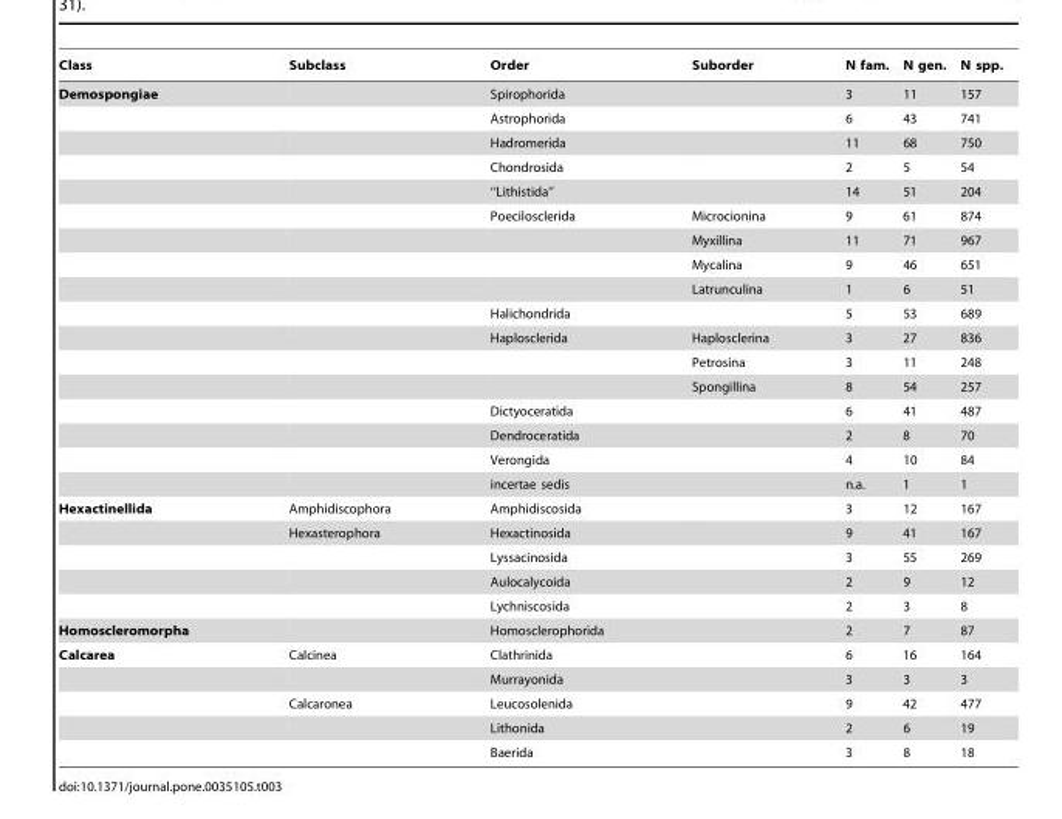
<table><thead><tr><td>Class</td><td>Subclass</td><td>Order</td><td>Suborder</td><td>N fam.</td><td>N gen.</td><td>N spp.</td></tr></thead><tbody><tr><td rowspan="17">Demospongiae</td><td></td><td>Spirophorida</td><td></td><td>3</td><td>11</td><td>157</td></tr><tr><td></td><td>Astrophorida</td><td></td><td>6</td><td>43</td><td>741</td></tr><tr><td></td><td>Hadromerida</td><td></td><td>11</td><td>68</td><td>750</td></tr><tr><td></td><td>Chondrosida</td><td></td><td>2</td><td>5</td><td>54</td></tr><tr><td></td><td>‘‘Lithistida’’</td><td></td><td>14</td><td>51</td><td>204</td></tr><tr><td></td><td>Poecilosclerida</td><td>Microcionina</td><td>9</td><td>61</td><td>874</td></tr><tr><td></td><td></td><td>Myxillina</td><td>11</td><td>71</td><td>967</td></tr><tr><td></td><td></td><td>Mycalina</td><td>9</td><td>46</td><td>651</td></tr><tr><td></td><td></td><td>Latrunculina</td><td>1</td><td>6</td><td>51</td></tr><tr><td></td><td>Halichondrida</td><td></td><td>5</td><td>53</td><td>689</td></tr><tr><td></td><td>Haplosclerida</td><td>Haplosclerina</td><td>3</td><td>27</td><td>836</td></tr><tr><td></td><td></td><td>Petrosina</td><td>3</td><td>11</td><td>248</td></tr><tr><td></td><td></td><td>Spongillina</td><td>8</td><td>54</td><td>257</td></tr><tr><td></td><td>Dictyoceratida</td><td></td><td>6</td><td>41</td><td>487</td></tr><tr><td></td><td>Dendroceratida</td><td></td><td>2</td><td>8</td><td>70</td></tr><tr><td></td><td>Verongida</td><td></td><td>4</td><td>10</td><td>84</td></tr><tr><td></td><td>incertae sedis</td><td></td><td>n.a.</td><td>1</td><td>1</td></tr><tr><td rowspan="5">Hexactinellida</td><td>Amphidiscophora</td><td>Amphidiscosida</td><td></td><td>3</td><td>12</td><td>167</td></tr><tr><td>Hexasterophora</td><td>Hexactinosida</td><td></td><td>9</td><td>41</td><td>167</td></tr><tr><td></td><td>Lyssacinosida</td><td></td><td>3</td><td>55</td><td>269</td></tr><tr><td></td><td>Aulocalycoida</td><td></td><td>2</td><td>9</td><td>12</td></tr><tr><td></td><td>Lychniscosida</td><td></td><td>2</td><td>3</td><td>8</td></tr><tr><td>Homoscleromorpha</td><td></td><td>Homosclerophorida</td><td></td><td>2</td><td>7</td><td>87</td></tr><tr><td rowspan="5">Calcarea</td><td>Calcinea</td><td>Clathrinida</td><td></td><td>6</td><td>16</td><td>164</td></tr><tr><td></td><td>Murrayonida</td><td></td><td>3</td><td>3</td><td>3</td></tr><tr><td>Calcaronea</td><td>Leucosolenida</td><td></td><td>9</td><td>42</td><td>477</td></tr><tr><td></td><td>Lithonida</td><td></td><td>2</td><td>6</td><td>19</td></tr><tr><td></td><td>Baerida</td><td></td><td>3</td><td>8</td><td>18</td></tr></tbody></table>